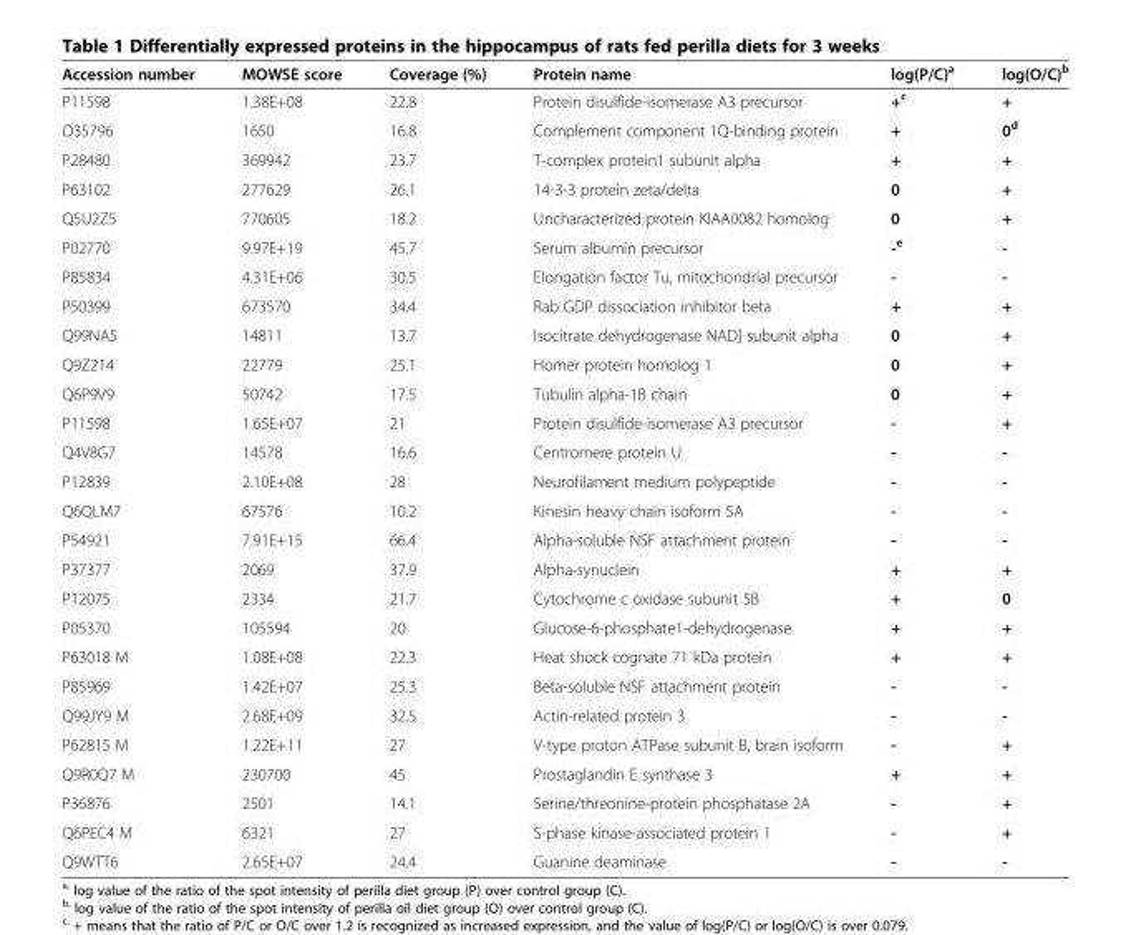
<table><thead><tr><td>Accession number</td><td>MOWSE score</td><td>Coverage (%)</td><td>Protein name</td><td>log(P/C)<sup>a</sup></td><td>log(O/C)<sup>b</sup></td></tr></thead><tbody><tr><td>P11598</td><td>1.38E+08</td><td>22.8</td><td>Protein disulfide-isomerase A3 precursor</td><td>+<sup>c</sup></td><td>+</td></tr><tr><td>O35796</td><td>1650</td><td>16.8</td><td>Complement component 1Q-binding protein</td><td>+</td><td>0<sup>d</sup></td></tr><tr><td>P28480</td><td>369942</td><td>23.7</td><td>T-complex protein1 subunit alpha</td><td>+</td><td>+</td></tr><tr><td>P63102</td><td>277629</td><td>26.1</td><td>14-3-3 protein zeta/delta</td><td>0</td><td>+</td></tr><tr><td>Q5U2Z5</td><td>770605</td><td>18.2</td><td>Uncharacterized protein KIAA0082 homolog</td><td>0</td><td>+</td></tr><tr><td>P02770</td><td>9.97E+19</td><td>45.7</td><td>Serum albumin precursor</td><td>-<sup>e</sup></td><td>-</td></tr><tr><td>P85834</td><td>4.31E+06</td><td>30.5</td><td>Elongation factor Tu, mitochondrial precursor</td><td>-</td><td>-</td></tr><tr><td>P50399</td><td>673570</td><td>34.4</td><td>Rab GDP dissociation inhibitor beta</td><td>+</td><td>+</td></tr><tr><td>Q99NA5</td><td>14811</td><td>13.7</td><td>Isocitrate dehydrogenase NAD] subunit alpha</td><td>0</td><td>+</td></tr><tr><td>Q9Z214</td><td>22779</td><td>25.1</td><td>Homer protein homolog 1</td><td>0</td><td>+</td></tr><tr><td>Q6P9V9</td><td>50742</td><td>17.5</td><td>Tubulin alpha-1B chain</td><td>0</td><td>+</td></tr><tr><td>P11598</td><td>1.65E+07</td><td>21</td><td>Protein disulfide-isomerase A3 precursor</td><td>-</td><td>+</td></tr><tr><td>Q4V8G7</td><td>14578</td><td>16.6</td><td>Centromere protein U</td><td>-</td><td>-</td></tr><tr><td>P12839</td><td>2.10E+08</td><td>28</td><td>Neurofilament medium polypeptide</td><td>-</td><td>-</td></tr><tr><td>Q6QLM7</td><td>67576</td><td>10.2</td><td>Kinesin heavy chain isoform 5A</td><td>-</td><td>-</td></tr><tr><td>P54921</td><td>7.91E+15</td><td>66.4</td><td>Alpha-soluble NSF attachment protein</td><td>-</td><td>-</td></tr><tr><td>P37377</td><td>2069</td><td>37.9</td><td>Alpha-synuclein</td><td>+</td><td>+</td></tr><tr><td>P12075</td><td>2334</td><td>21.7</td><td>Cytochrome c oxidase subunit 5B</td><td>+</td><td>0</td></tr><tr><td>P05370</td><td>105594</td><td>20</td><td>Glucose-6-phosphate1-dehydrogenase</td><td>+</td><td>+</td></tr><tr><td>P63018 M</td><td>1.08E+08</td><td>22.3</td><td>Heat shock cognate 71 kDa protein</td><td>+</td><td>+</td></tr><tr><td>P85969</td><td>1.42E+07</td><td>25.3</td><td>Beta-soluble NSF attachment protein</td><td>-</td><td>-</td></tr><tr><td>Q99JY9 M</td><td>2.68E+09</td><td>32.5</td><td>Actin-related protein 3</td><td>-</td><td>-</td></tr><tr><td>P62815 M</td><td>1.22E+11</td><td>27</td><td>V-type proton ATPase subunit B, brain isoform</td><td>-</td><td>+</td></tr><tr><td>Q9R0Q7 M</td><td>230700</td><td>45</td><td>Prostaglandin E synthase 3</td><td>+</td><td>+</td></tr><tr><td>P36876</td><td>2501</td><td>14.1</td><td>Serine/threonine-protein phosphatase 2A</td><td>-</td><td>+</td></tr><tr><td>Q6PEC4 M</td><td>6321</td><td>27</td><td>S-phase kinase-associated protein 1</td><td>-</td><td>+</td></tr><tr><td>Q9WTT6</td><td>2.65E+07</td><td>24.4</td><td>Guanine deaminase</td><td>-</td><td>-</td></tr></tbody></table>